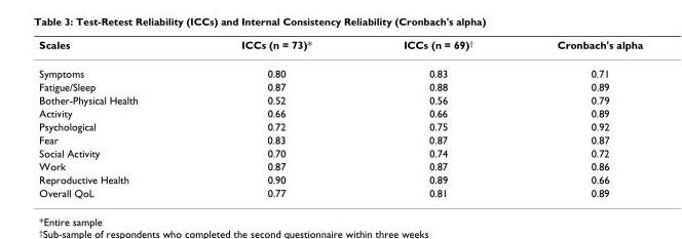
<table><thead><tr><td>Scales</td><td>ICCs (n = 73)*</td><td>ICCs (n = 69)<sup>†</sup></td><td>Cronbach&#x27;s alpha</td></tr></thead><tbody><tr><td>Symptoms</td><td>0.80</td><td>0.83</td><td>0.71</td></tr><tr><td>Fatigue/Sleep</td><td>0.87</td><td>0.88</td><td>0.89</td></tr><tr><td>Bother-Physical Health</td><td>0.52</td><td>0.56</td><td>0.79</td></tr><tr><td>Activity</td><td>0.66</td><td>0.66</td><td>0.89</td></tr><tr><td>Psychological</td><td>0.72</td><td>0.75</td><td>0.92</td></tr><tr><td>Fear</td><td>0.83</td><td>0.87</td><td>0.87</td></tr><tr><td>Social Activity</td><td>0.70</td><td>0.74</td><td>0.72</td></tr><tr><td>Work</td><td>0.87</td><td>0.87</td><td>0.86</td></tr><tr><td>Reproductive Health</td><td>0.90</td><td>0.89</td><td>0.66</td></tr><tr><td>Overall QoL</td><td>0.77</td><td>0.81</td><td>0.89</td></tr></tbody></table>